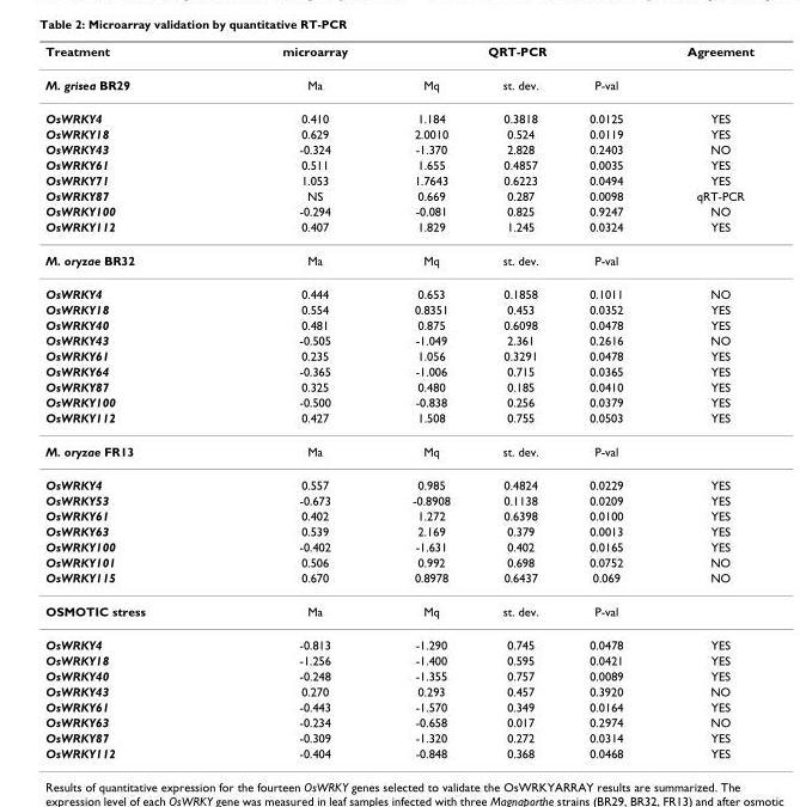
<table><thead><tr><td rowspan="2">Treatment M. grisea BR29</td><td rowspan="2">microarray Ma</td><td colspan="3">QRT-PCR</td><td rowspan="2">Agreement</td></tr><tr><td>Mq</td><td>st. dev.</td><td>P-val</td></tr></thead><tbody><tr><td>OsWRKY4</td><td>0.410</td><td>1.184</td><td>0.3818</td><td>0.0125</td><td>YES</td></tr><tr><td>OsWRKY18</td><td>0.629</td><td>2.0010</td><td>0.524</td><td>0.0119</td><td>YES</td></tr><tr><td>OsWRKY43</td><td>-0.324</td><td>-1.370</td><td>2.828</td><td>0.2403</td><td>NO</td></tr><tr><td>OsWRKY61</td><td>0.511</td><td>1.655</td><td>0.4857</td><td>0.0035</td><td>YES</td></tr><tr><td>OsWRKY71</td><td>1.053</td><td>1.7643</td><td>0.6223</td><td>0.0494</td><td>YES</td></tr><tr><td>OsWRKY87</td><td>NS</td><td>0.669</td><td>0.287</td><td>0.0098</td><td>qRT-PCR</td></tr><tr><td>OsWRKY100</td><td>-0.294</td><td>-0.081</td><td>0.825</td><td>0.9247</td><td>NO</td></tr><tr><td>OsWRKY112</td><td>0.407</td><td>1.829</td><td>1.245</td><td>0.0324</td><td>YES</td></tr><tr><td>M. oryzae BR32</td><td>Ma</td><td>Mq</td><td>st. dev.</td><td>P-val</td><td></td></tr><tr><td>OsWRKY4</td><td>0.444</td><td>0.653</td><td>0.1858</td><td>0.1011</td><td>NO</td></tr><tr><td>OsWRKY18</td><td>0.554</td><td>0.8351</td><td>0.453</td><td>0.0352</td><td>YES</td></tr><tr><td>OsWRKY40</td><td>0.481</td><td>0.875</td><td>0.6098</td><td>0.0478</td><td>YES</td></tr><tr><td>OsWRKY43</td><td>-0.505</td><td>-1.049</td><td>2.361</td><td>0.2616</td><td>NO</td></tr><tr><td>OsWRKY61</td><td>0.235</td><td>1.056</td><td>0.3291</td><td>0.0478</td><td>YES</td></tr><tr><td>OsWRKY64</td><td>-0.365</td><td>-1.006</td><td>0.715</td><td>0.0365</td><td>YES</td></tr><tr><td>OsWRKY87</td><td>0.325</td><td>0.480</td><td>0.185</td><td>0.0410</td><td>YES</td></tr><tr><td>OsWRKY100</td><td>-0.500</td><td>-0.838</td><td>0.256</td><td>0.0379</td><td>YES</td></tr><tr><td>OsWRKY112</td><td>0.427</td><td>1.508</td><td>0.755</td><td>0.0503</td><td>YES</td></tr><tr><td>M. oryzae FR13</td><td>Ma</td><td>Mq</td><td>st. dev.</td><td>P-val</td><td></td></tr><tr><td>OsWRKY4</td><td>0.557</td><td>0.985</td><td>0.4824</td><td>0.0229</td><td>YES</td></tr><tr><td>OsWRKY53</td><td>-0.673</td><td>-0.8908</td><td>0.1138</td><td>0.0209</td><td>YES</td></tr><tr><td>OsWRKY61</td><td>0.402</td><td>1.272</td><td>0.6398</td><td>0.0100</td><td>YES</td></tr><tr><td>OsWRKY63</td><td>0.539</td><td>2.169</td><td>0.379</td><td>0.0013</td><td>YES</td></tr><tr><td>OsWRKY100</td><td>-0.402</td><td>-1.631</td><td>0.402</td><td>0.0165</td><td>YES</td></tr><tr><td>OsWRKY101</td><td>0.506</td><td>0.992</td><td>0.698</td><td>0.0752</td><td>NO</td></tr><tr><td>OsWRKY115</td><td>0.670</td><td>0.8978</td><td>0.6437</td><td>0.069</td><td>NO</td></tr><tr><td>OSMOTIC stress</td><td>Ma</td><td>Mq</td><td>st. dev.</td><td>P-val</td><td></td></tr><tr><td>OsWRKY4</td><td>-0.813</td><td>-1.290</td><td>0.745</td><td>0.0478</td><td>YES</td></tr><tr><td>OsWRKY18</td><td>-1.256</td><td>-1.400</td><td>0.595</td><td>0.0421</td><td>YES</td></tr><tr><td>OsWRKY40</td><td>-0.248</td><td>-1.355</td><td>0.757</td><td>0.0089</td><td>YES</td></tr><tr><td>OsWRKY43</td><td>0.270</td><td>0.293</td><td>0.457</td><td>0.3920</td><td>NO</td></tr><tr><td>OsWRKY61</td><td>-0.443</td><td>-1.570</td><td>0.349</td><td>0.0164</td><td>YES</td></tr><tr><td>OsWRKY63</td><td>-0.234</td><td>-0.658</td><td>0.017</td><td>0.2974</td><td>NO</td></tr><tr><td>OsWRKY87</td><td>-0.309</td><td>-1.320</td><td>0.272</td><td>0.0314</td><td>YES</td></tr><tr><td>OsWRKY112</td><td>-0.404</td><td>-0.848</td><td>0.368</td><td>0.0468</td><td>YES</td></tr></tbody></table>